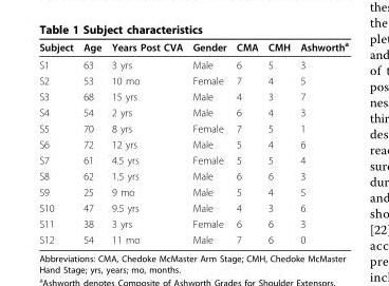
<table><thead><tr><td>Subject</td><td>Age</td><td>Years Post CVA</td><td>Gender</td><td>CMA</td><td>CMH</td><td>Ashworth<sup>a</sup></td></tr></thead><tbody><tr><td>S1</td><td>63</td><td>3 yrs</td><td>Male</td><td>6</td><td>5</td><td>3</td></tr><tr><td>S2</td><td>53</td><td>10 mo</td><td>Female</td><td>7</td><td>4</td><td>5</td></tr><tr><td>S3</td><td>68</td><td>15 yrs</td><td>Male</td><td>4</td><td>3</td><td>7</td></tr><tr><td>S4</td><td>54</td><td>2 yrs</td><td>Male</td><td>6</td><td>4</td><td>3</td></tr><tr><td>S5</td><td>70</td><td>8 yrs</td><td>Female</td><td>7</td><td>5</td><td>1</td></tr><tr><td>S6</td><td>72</td><td>12 yrs</td><td>Male</td><td>5</td><td>4</td><td>6</td></tr><tr><td>S7</td><td>61</td><td>4.5 yrs</td><td>Female</td><td>5</td><td>5</td><td>4</td></tr><tr><td>S8</td><td>62</td><td>1.5 yrs</td><td>Male</td><td>6</td><td>6</td><td>3</td></tr><tr><td>S9</td><td>25</td><td>9 mo</td><td>Male</td><td>5</td><td>4</td><td>5</td></tr><tr><td>S10</td><td>47</td><td>9.5 yrs</td><td>Male</td><td>4</td><td>3</td><td>6</td></tr><tr><td>S11</td><td>38</td><td>3 yrs</td><td>Female</td><td>6</td><td>6</td><td>3</td></tr><tr><td>S12</td><td>54</td><td>11 mo</td><td>Male</td><td>7</td><td>6</td><td>0</td></tr></tbody></table>